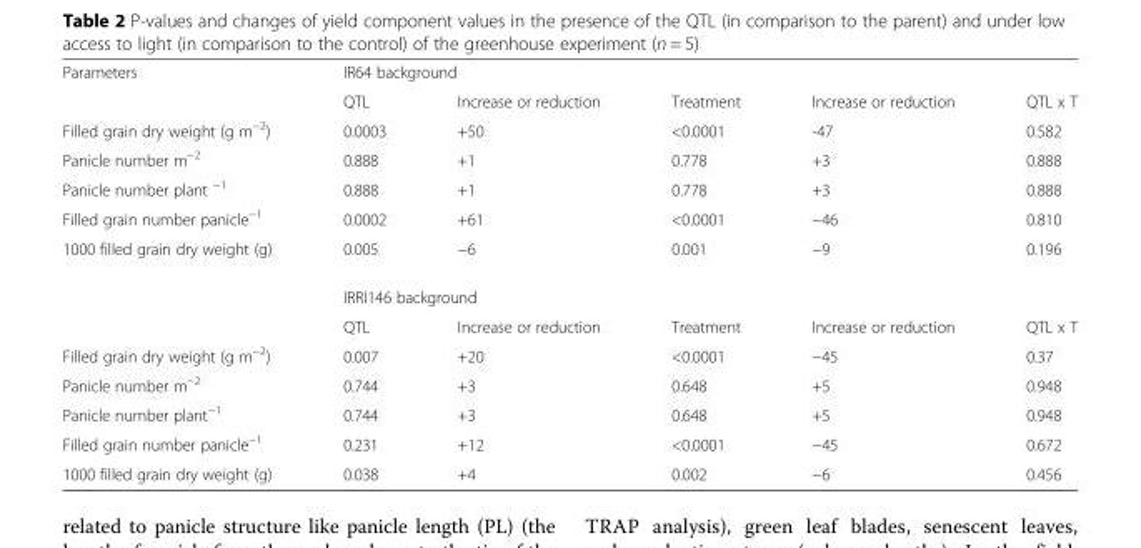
<table><tbody><tr><td rowspan="2">Parameters</td><td colspan="5">IR64 background</td></tr><tr><td>QTL</td><td>Increase or reduction</td><td>Treatment</td><td>Increase or reduction</td><td>QTL x T</td></tr><tr><td>Filled grain dry weight (g m<sup>−2</sup>)</td><td>0.0003</td><td>+50</td><td>&lt;0.0001</td><td>-47</td><td>0.582</td></tr><tr><td>Panicle number m<sup>−2</sup></td><td>0.888</td><td>+1</td><td>0.778</td><td>+3</td><td>0.888</td></tr><tr><td>Panicle number plant <sup>−1</sup></td><td>0.888</td><td>+1</td><td>0.778</td><td>+3</td><td>0.888</td></tr><tr><td>Filled grain number panicle<sup>−1</sup></td><td>0.0002</td><td>+61</td><td>&lt;0.0001</td><td>−46</td><td>0.810</td></tr><tr><td rowspan="3">1000 filled grain dry weight (g)</td><td>0.005</td><td>−6</td><td>0.001</td><td>−9</td><td>0.196</td></tr><tr><td colspan="5">IRRI146 background</td></tr><tr><td>QTL</td><td>Increase or reduction</td><td>Treatment</td><td>Increase or reduction</td><td>QTL x T</td></tr><tr><td>Filled grain dry weight (g m<sup>−2</sup>)</td><td>0.007</td><td>+20</td><td>&lt;0.0001</td><td>−45</td><td>0.37</td></tr><tr><td>Panicle number m<sup>−2</sup></td><td>0.744</td><td>+3</td><td>0.648</td><td>+5</td><td>0.948</td></tr><tr><td>Panicle number plant<sup>−1</sup></td><td>0.744</td><td>+3</td><td>0.648</td><td>+5</td><td>0.948</td></tr><tr><td>Filled grain number panicle<sup>−1</sup></td><td>0.231</td><td>+12</td><td>&lt;0.0001</td><td>−45</td><td>0.672</td></tr><tr><td>1000 filled grain dry weight (g)</td><td>0.038</td><td>+4</td><td>0.002</td><td>−6</td><td>0.456</td></tr></tbody></table>